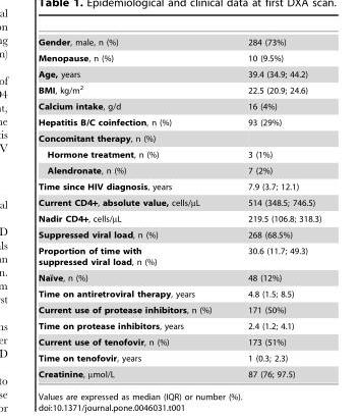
<table><tbody><tr><td>Gender, male, n (%)</td><td>284 (73%)</td></tr><tr><td>Menopause, n (%)</td><td>10 (9.5%)</td></tr><tr><td>Age, years</td><td>39.4 (34.9; 44.2)</td></tr><tr><td>BMI, kg/m<sup>2</sup></td><td>22.5 (20.9; 24.6)</td></tr><tr><td>Calcium intake, g/d</td><td>16 (4%)</td></tr><tr><td>Hepatitis B/C coinfection, n (%)</td><td>93 (29%)</td></tr><tr><td colspan="2">Concomitant therapy, n (%)</td></tr><tr><td>Hormone treatment, n (%)</td><td>3 (1%)</td></tr><tr><td>Alendronate, n (%)</td><td>7 (2%)</td></tr><tr><td>Time since HIV diagnosis, years</td><td>7.9 (3.7; 12.1)</td></tr><tr><td>Current CD4+, absolute value, cells/µL</td><td>514 (348.5; 746.5)</td></tr><tr><td>Nadir CD4+, cells/µL</td><td>219.5 (106.8; 318.3)</td></tr><tr><td>Suppressed viral load, n (%)</td><td>268 (68.5%)</td></tr><tr><td>Proportion of time with suppressed viral load, n (%)</td><td>30.6 (11.7; 49.3)</td></tr><tr><td>Naı¨ve, n (%)</td><td>48 (12%)</td></tr><tr><td>Time on antiretroviral therapy, years</td><td>4.8 (1.5; 8.5)</td></tr><tr><td>Current use of protease inhibitors, n (%)</td><td>171 (50%)</td></tr><tr><td>Time on protease inhibitors, years</td><td>2.4 (1.2; 4.1)</td></tr><tr><td>Current use of tenofovir, n (%)</td><td>173 (51%)</td></tr><tr><td>Time on tenofovir, years</td><td>1 (0.3; 2.3)</td></tr><tr><td>Creatinine, µmol/L</td><td>87 (76; 97.5)</td></tr></tbody></table>